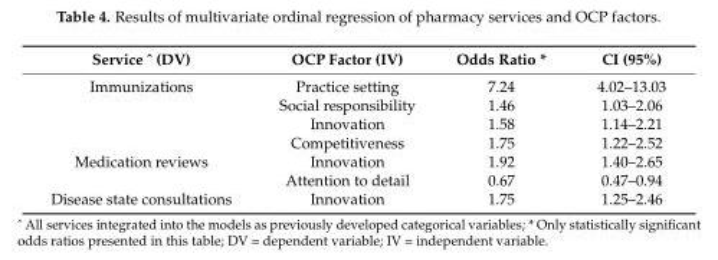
<table><thead><tr><td>Service ˆ (DV)</td><td>OCP Factor (IV)</td><td>Odds Ratio *</td><td>CI (95%)</td></tr></thead><tbody><tr><td rowspan="4">Immunizations</td><td>Practice setting</td><td>7.24</td><td>4.02–13.03</td></tr><tr><td>Social responsibility</td><td>1.46</td><td>1.03–2.06</td></tr><tr><td>Innovation</td><td>1.58</td><td>1.14–2.21</td></tr><tr><td>Competitiveness</td><td>1.75</td><td>1.22–2.52</td></tr><tr><td rowspan="2">Medication reviews</td><td>Innovation</td><td>1.92</td><td>1.40–2.65</td></tr><tr><td>Attention to detail</td><td>0.67</td><td>0.47–0.94</td></tr><tr><td>Disease state consultations</td><td>Innovation</td><td>1.75</td><td>1.25–2.46</td></tr></tbody></table>